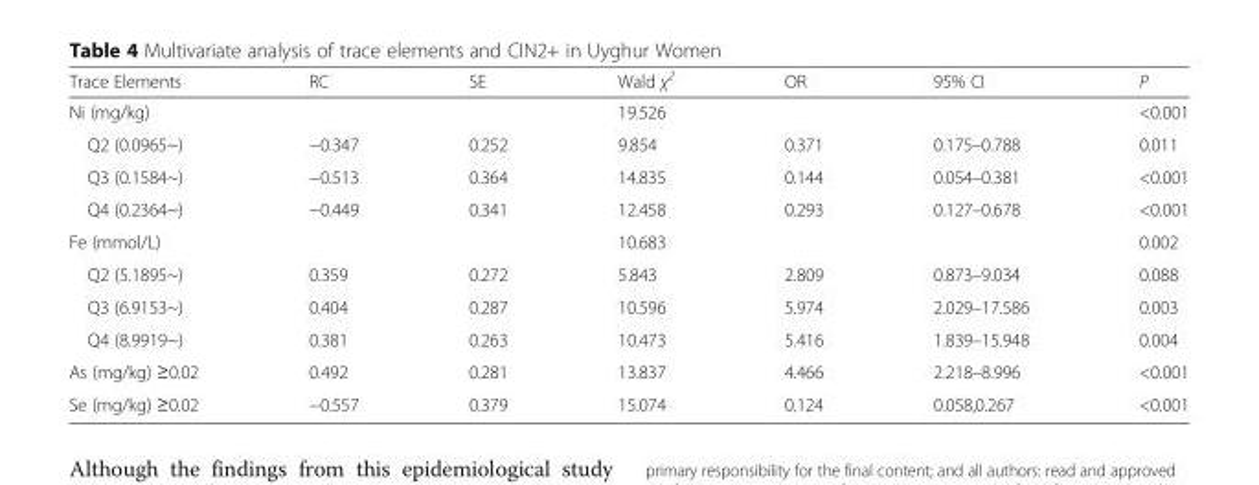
<table><thead><tr><td>Trace Elements</td><td>RC</td><td>SE</td><td>Wald χ<sup>2</sup></td><td>OR</td><td>95% CI</td><td>P</td></tr></thead><tbody><tr><td>Ni (mg/kg)</td><td></td><td></td><td>19.526</td><td></td><td></td><td>&lt;0.001</td></tr><tr><td>Q2 (0.0965~)</td><td>−0.347</td><td>0.252</td><td>9.854</td><td>0.371</td><td>0.175–0.788</td><td>0.011</td></tr><tr><td>Q3 (0.1584~)</td><td>−0.513</td><td>0.364</td><td>14.835</td><td>0.144</td><td>0.054–0.381</td><td>&lt;0.001</td></tr><tr><td>Q4 (0.2364~)</td><td>−0.449</td><td>0.341</td><td>12.458</td><td>0.293</td><td>0.127–0.678</td><td>&lt;0.001</td></tr><tr><td>Fe (mmol/L)</td><td></td><td></td><td>10.683</td><td></td><td></td><td>0.002</td></tr><tr><td>Q2 (5.1895~)</td><td>0.359</td><td>0.272</td><td>5.843</td><td>2.809</td><td>0.873–9.034</td><td>0.088</td></tr><tr><td>Q3 (6.9153~)</td><td>0.404</td><td>0.287</td><td>10.596</td><td>5.974</td><td>2.029–17.586</td><td>0.003</td></tr><tr><td>Q4 (8.9919~)</td><td>0.381</td><td>0.263</td><td>10.473</td><td>5.416</td><td>1.839–15.948</td><td>0.004</td></tr><tr><td>As (mg/kg) ≥0.02</td><td>0.492</td><td>0.281</td><td>13.837</td><td>4.466</td><td>2.218–8.996</td><td>&lt;0.001</td></tr><tr><td>Se (mg/kg) ≥0.02</td><td>−0.557</td><td>0.379</td><td>15.074</td><td>0.124</td><td>0.058,0.267</td><td>&lt;0.001</td></tr></tbody></table>